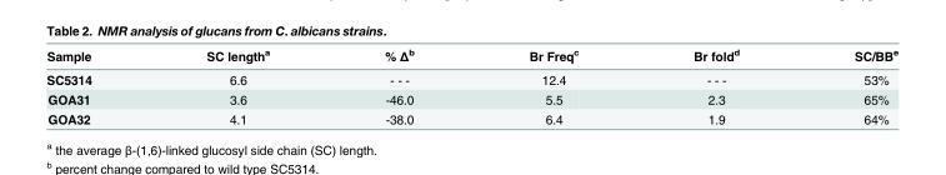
<table><thead><tr><td>Sample</td><td>SC length<sup>a</sup></td><td>% Δ<sup>b</sup></td><td>Br Freq<sup>c</sup></td><td>Br fold<sup>d</sup></td><td>SC/BB<sup>e</sup></td></tr></thead><tbody><tr><td>SC5314</td><td>6.6</td><td>- - -</td><td>12.4</td><td>- - -</td><td>53%</td></tr><tr><td>GOA31</td><td>3.6</td><td>-46.0</td><td>5.5</td><td>2.3</td><td>65%</td></tr><tr><td>GOA32</td><td>4.1</td><td>-38.0</td><td>6.4</td><td>1.9</td><td>64%</td></tr></tbody></table>